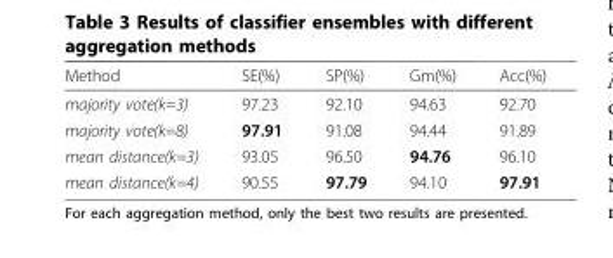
<table><thead><tr><td>Method</td><td>SE(%)</td><td>SP(%)</td><td>Gm(%)</td><td>Acc(%)</td></tr></thead><tbody><tr><td>majority vote(k=3)</td><td>97.23</td><td>92.10</td><td>94.63</td><td>92.70</td></tr><tr><td>majority vote(k=8)</td><td>97.91</td><td>91.08</td><td>94.44</td><td>91.89</td></tr><tr><td>mean distance(k=3)</td><td>93.05</td><td>96.50</td><td>94.76</td><td>96.10</td></tr><tr><td>mean distance(k=4)</td><td>90.55</td><td>97.79</td><td>94.10</td><td>97.91</td></tr></tbody></table>